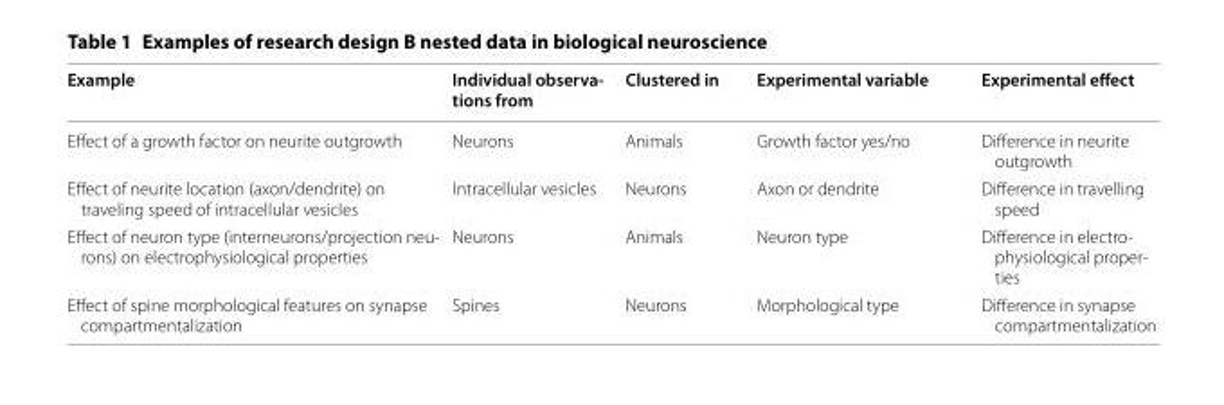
<table><thead><tr><td>Example</td><td>Individual observa‑ tions from</td><td>Clustered in</td><td>Experimental variable</td><td>Experimental effect</td></tr></thead><tbody><tr><td>Effect of a growth factor on neurite outgrowth</td><td>Neurons</td><td>Animals</td><td>Growth factor yes/no</td><td>Difference in neurite outgrowth</td></tr><tr><td>Effect of neurite location (axon/dendrite) on traveling speed of intracellular vesicles</td><td>Intracellular vesicles</td><td>Neurons</td><td>Axon or dendrite</td><td>Difference in travelling speed</td></tr><tr><td>Effect of neuron type (interneurons/projection neu- rons) on electrophysiological properties</td><td>Neurons</td><td>Animals</td><td>Neuron type</td><td>Difference in electro- physiological proper- ties</td></tr><tr><td>Effect of spine morphological features on synapse compartmentalization</td><td>Spines</td><td>Neurons</td><td>Morphological type</td><td>Difference in synapse compartmentalization</td></tr></tbody></table>